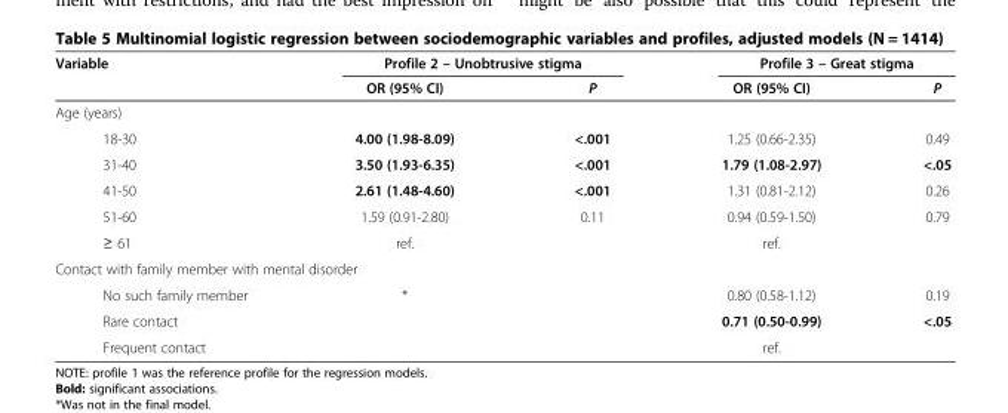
<table><thead><tr><td rowspan="2">Variable</td><td colspan="2">Profile 2 – Unobtrusive stigma</td><td colspan="2">Profile 3 – Great stigma</td></tr><tr><td>OR (95% CI)</td><td>P</td><td>OR (95% CI)</td><td>P</td></tr></thead><tbody><tr><td colspan="5">Age (years)</td></tr><tr><td>18-30</td><td>4.00 (1.98-8.09)</td><td>&lt;.001</td><td>1.25 (0.66-2.35)</td><td>0.49</td></tr><tr><td>31-40</td><td>3.50 (1.93-6.35)</td><td>&lt;.001</td><td>1.79 (1.08-2.97)</td><td>&lt;.05</td></tr><tr><td>41-50</td><td>2.61 (1.48-4.60)</td><td>&lt;.001</td><td>1.31 (0.81-2.12)</td><td>0.26</td></tr><tr><td>51-60</td><td>1.59 (0.91-2.80)</td><td>0.11</td><td>0.94 (0.59-1.50)</td><td>0.79</td></tr><tr><td>≥ 61</td><td>ref.</td><td></td><td>ref.</td><td></td></tr><tr><td colspan="5">Contact with family member with mental disorder</td></tr><tr><td>No such family member</td><td>*</td><td></td><td>0.80 (0.58-1.12)</td><td>0.19</td></tr><tr><td>Rare contact</td><td></td><td></td><td>0.71 (0.50-0.99)</td><td>&lt;.05</td></tr><tr><td>Frequent contact</td><td></td><td></td><td>ref.</td><td></td></tr></tbody></table>